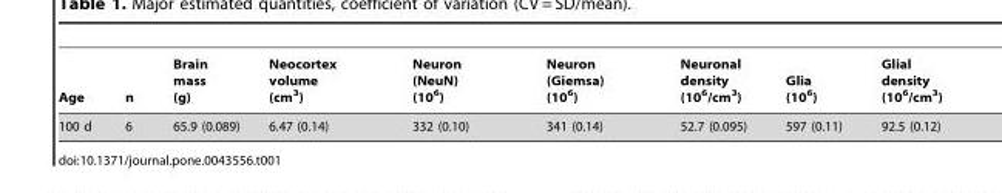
<table><thead><tr><td>Age</td><td>n</td><td>Brain mass (g)</td><td>Neocortex volume (cm<sup>3</sup>)</td><td>Neuron (NeuN) (10<sup>6</sup>)</td><td>Neuron (Giemsa) (10<sup>6</sup>)</td><td>Neuronal density (10<sup>6</sup>/cm<sup>3</sup>)</td><td>Glia (10<sup>6</sup>)</td><td>Glial density (10<sup>6</sup>/cm<sup>3</sup>)</td></tr></thead><tbody><tr><td>100 d</td><td>6</td><td>65.9 (0.089)</td><td>6.47 (0.14)</td><td>332 (0.10)</td><td>341 (0.14)</td><td>52.7 (0.095)</td><td>597 (0.11)</td><td>92.5 (0.12)</td></tr></tbody></table>